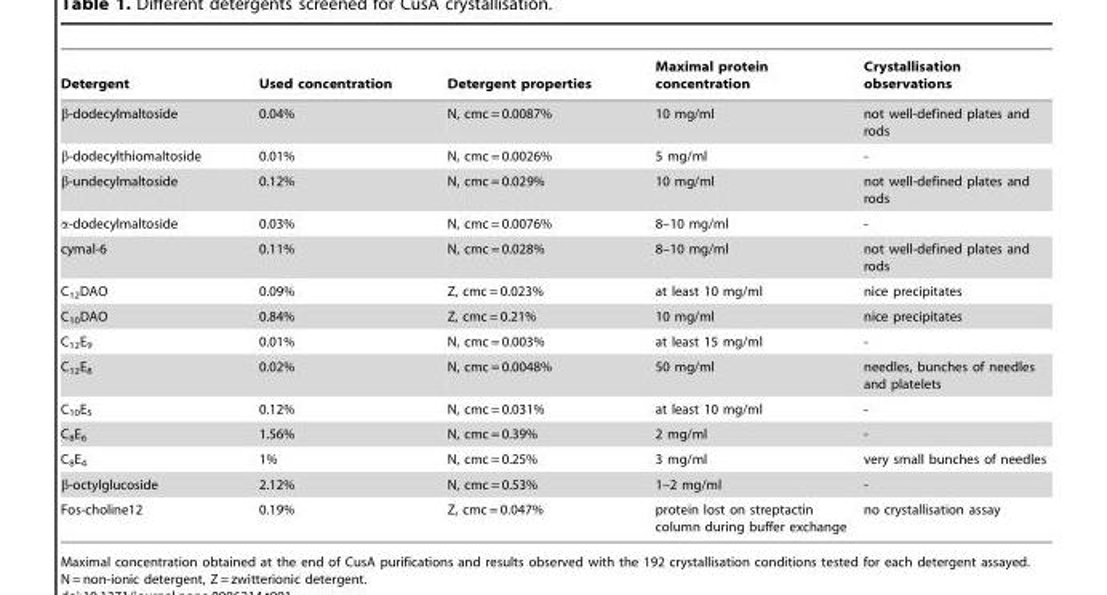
<table><thead><tr><td>Detergent</td><td>Used concentration</td><td>Detergent properties</td><td>Maximal protein concentration</td><td>Crystallisation observations</td></tr></thead><tbody><tr><td>β-dodecylmaltoside</td><td>0.04%</td><td>N, cmc = 0.0087%</td><td>10 mg/ml</td><td>not well-defined plates and rods</td></tr><tr><td>β-dodecylthiomaltoside</td><td>0.01%</td><td>N, cmc = 0.0026%</td><td>5 mg/ml</td><td>-</td></tr><tr><td>β-undecylmaltoside</td><td>0.12%</td><td>N, cmc = 0.029%</td><td>10 mg/ml</td><td>not well-defined plates and rods</td></tr><tr><td>α-dodecylmaltoside</td><td>0.03%</td><td>N, cmc = 0.0076%</td><td>8–10 mg/ml</td><td>-</td></tr><tr><td>cymal-6</td><td>0.11%</td><td>N, cmc = 0.028%</td><td>8–10 mg/ml</td><td>not well-defined plates and rods</td></tr><tr><td>C<sub>12</sub>DAO</td><td>0.09%</td><td>Z, cmc = 0.023%</td><td>at least 10 mg/ml</td><td>nice precipitates</td></tr><tr><td>C<sub>10</sub>DAO</td><td>0.84%</td><td>Z, cmc = 0.21%</td><td>10 mg/ml</td><td>nice precipitates</td></tr><tr><td>C<sub>12</sub>E<sub>9</sub></td><td>0.01%</td><td>N, cmc = 0.003%</td><td>at least 15 mg/ml</td><td>-</td></tr><tr><td>C<sub>12</sub>E<sub>8</sub></td><td>0.02%</td><td>N, cmc = 0.0048%</td><td>50 mg/ml</td><td>needles, bunches of needles and platelets</td></tr><tr><td>C<sub>10</sub>E<sub>5</sub></td><td>0.12%</td><td>N, cmc = 0.031%</td><td>at least 10 mg/ml</td><td>-</td></tr><tr><td>C<sub>8</sub>E<sub>6</sub></td><td>1.56%</td><td>N, cmc = 0.39%</td><td>2 mg/ml</td><td>-</td></tr><tr><td>C<sub>8</sub>E<sub>4</sub></td><td>1%</td><td>N, cmc = 0.25%</td><td>3 mg/ml</td><td>very small bunches of needles</td></tr><tr><td>β-octylglucoside</td><td>2.12%</td><td>N, cmc = 0.53%</td><td>1–2 mg/ml</td><td>-</td></tr><tr><td>Fos-choline12</td><td>0.19%</td><td>Z, cmc = 0.047%</td><td>protein lost on streptactin column during buffer exchange</td><td>no crystallisation assay</td></tr></tbody></table>